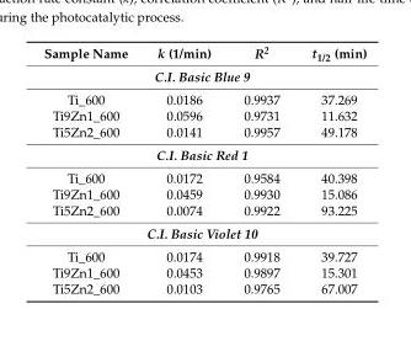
<table><thead><tr><td>Sample Name</td><td>k (1/min)</td><td>R<sup>2</sup></td><td>t<sub>1/2</sub> (min)</td></tr></thead><tbody><tr><td colspan="4">C.I. Basic Blue 9</td></tr><tr><td>Ti_600</td><td>0.0186</td><td>0.9937</td><td>37.269</td></tr><tr><td>Ti9Zn1_600</td><td>0.0596</td><td>0.9731</td><td>11.632</td></tr><tr><td>Ti5Zn2_600</td><td>0.0141</td><td>0.9957</td><td>49.178</td></tr><tr><td colspan="4">C.I. Basic Red 1</td></tr><tr><td>Ti_600</td><td>0.0172</td><td>0.9584</td><td>40.398</td></tr><tr><td>Ti9Zn1_600</td><td>0.0459</td><td>0.9930</td><td>15.086</td></tr><tr><td>Ti5Zn2_600</td><td>0.0074</td><td>0.9922</td><td>93.225</td></tr><tr><td colspan="4">C.I. Basic Violet 10</td></tr><tr><td>Ti_600</td><td>0.0174</td><td>0.9918</td><td>39.727</td></tr><tr><td>Ti9Zn1_600</td><td>0.0453</td><td>0.9897</td><td>15.301</td></tr><tr><td>Ti5Zn2_600</td><td>0.0103</td><td>0.9765</td><td>67.007</td></tr></tbody></table>